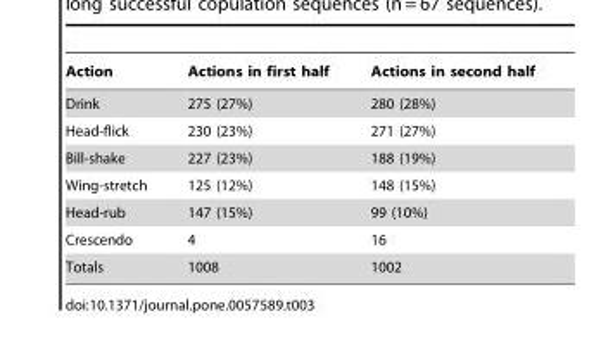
<table><thead><tr><td>Action</td><td>Actions in first half</td><td>Actions in second half</td></tr></thead><tbody><tr><td>Drink</td><td>275 (27%)</td><td>280 (28%)</td></tr><tr><td>Head-flick</td><td>230 (23%)</td><td>271 (27%)</td></tr><tr><td>Bill-shake</td><td>227 (23%)</td><td>188 (19%)</td></tr><tr><td>Wing-stretch</td><td>125 (12%)</td><td>148 (15%)</td></tr><tr><td>Head-rub</td><td>147 (15%)</td><td>99 (10%)</td></tr><tr><td>Crescendo</td><td>4</td><td>16</td></tr><tr><td>Totals</td><td>1008</td><td>1002</td></tr></tbody></table>